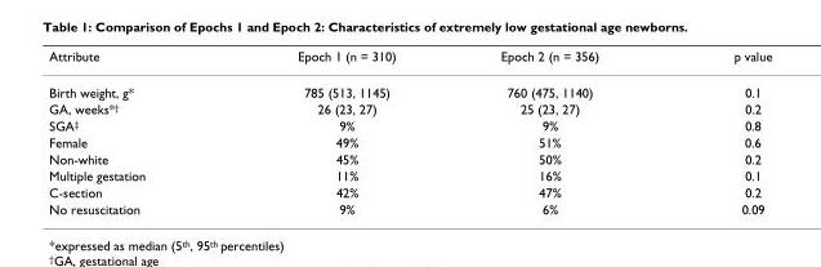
<table><thead><tr><td>Attribute</td><td>Epoch 1 (n = 310)</td><td>Epoch 2 (n = 356)</td><td>p value</td></tr></thead><tbody><tr><td>Birth weight, g*</td><td>785 (513, 1145)</td><td>760 (475, 1140)</td><td>0.1</td></tr><tr><td>GA, weeks*†</td><td>26 (23, 27)</td><td>25 (23, 27)</td><td>0.2</td></tr><tr><td>SGA‡</td><td>9%</td><td>9%</td><td>0.8</td></tr><tr><td>Female</td><td>49%</td><td>51%</td><td>0.6</td></tr><tr><td>Non-white</td><td>45%</td><td>50%</td><td>0.2</td></tr><tr><td>Multiple gestation</td><td>11%</td><td>16%</td><td>0.1</td></tr><tr><td>C-section</td><td>42%</td><td>47%</td><td>0.2</td></tr><tr><td>No resuscitation</td><td>9%</td><td>6%</td><td>0.09</td></tr></tbody></table>